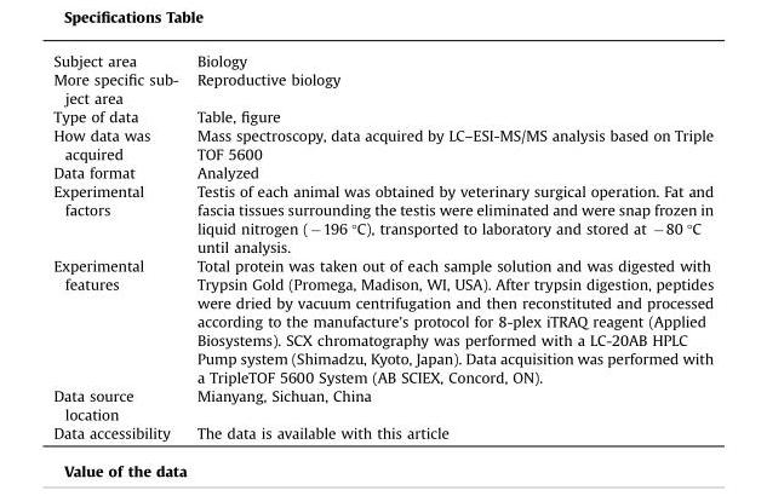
<table><tbody><tr><td>Subject area</td><td>Biology</td></tr><tr><td>More specific sub- ject area</td><td>Reproductive biology</td></tr><tr><td>Type of data</td><td>Table, figure</td></tr><tr><td>How data was acquired</td><td>Mass spectroscopy, data acquired by LC–ESI-MS/MS analysis based on Triple TOF 5600</td></tr><tr><td>Data format</td><td>Analyzed</td></tr><tr><td>Experimental factors</td><td>Testis of each animal was obtained by veterinary surgical operation. Fat and fascia tissues surrounding the testis were eliminated and were snap frozen in liquid nitrogen (−196 °C), transported to laboratory and stored at −80 °C until analysis.</td></tr><tr><td>Experimental features</td><td>Total protein was taken out of each sample solution and was digested with Trypsin Gold (Promega, Madison, WI, USA). After trypsin digestion, peptides were dried by vacuum centrifugation and then reconstituted and processed according to the manufacture&#x27;s protocol for 8-plex iTRAQ reagent (Applied Biosystems). SCX chromatography was performed with a LC-20AB HPLC Pump system (Shimadzu, Kyoto, Japan). Data acquisition was performed with a TripleTOF 5600 System (AB SCIEX, Concord, ON).</td></tr><tr><td>Data source location</td><td>Mianyang, Sichuan, China</td></tr><tr><td>Data accessibility</td><td>The data is available with this article</td></tr></tbody></table>